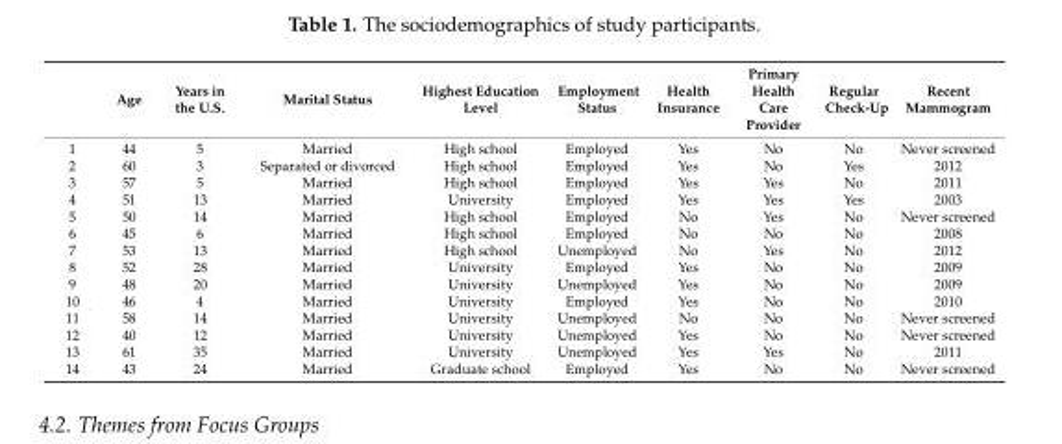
<table><thead><tr><td></td><td>Age</td><td>Years in the U.S.</td><td>Marital Status</td><td>Highest Education Level</td><td>Employment Status</td><td>Health Insurance</td><td>Primary Health Care Provider</td><td>Regular Check-Up</td><td>Recent Mammogram</td></tr></thead><tbody><tr><td>1</td><td>44</td><td>5</td><td>Married</td><td>High school</td><td>Employed</td><td>Yes</td><td>No</td><td>No</td><td>Never screened</td></tr><tr><td>2</td><td>60</td><td>3</td><td>Separated or divorced</td><td>High school</td><td>Employed</td><td>Yes</td><td>No</td><td>Yes</td><td>2012</td></tr><tr><td>3</td><td>57</td><td>5</td><td>Married</td><td>High school</td><td>Employed</td><td>Yes</td><td>Yes</td><td>No</td><td>2011</td></tr><tr><td>4</td><td>51</td><td>13</td><td>Married</td><td>University</td><td>Employed</td><td>Yes</td><td>Yes</td><td>Yes</td><td>2003</td></tr><tr><td>5</td><td>50</td><td>14</td><td>Married</td><td>High school</td><td>Employed</td><td>No</td><td>Yes</td><td>No</td><td>Never screened</td></tr><tr><td>6</td><td>45</td><td>6</td><td>Married</td><td>High school</td><td>Employed</td><td>No</td><td>No</td><td>No</td><td>2008</td></tr><tr><td>7</td><td>53</td><td>13</td><td>Married</td><td>High school</td><td>Unemployed</td><td>No</td><td>Yes</td><td>No</td><td>2012</td></tr><tr><td>8</td><td>52</td><td>28</td><td>Married</td><td>University</td><td>Employed</td><td>Yes</td><td>No</td><td>No</td><td>2009</td></tr><tr><td>9</td><td>48</td><td>20</td><td>Married</td><td>University</td><td>Unemployed</td><td>Yes</td><td>No</td><td>No</td><td>2009</td></tr><tr><td>10</td><td>46</td><td>4</td><td>Married</td><td>University</td><td>Employed</td><td>Yes</td><td>No</td><td>No</td><td>2010</td></tr><tr><td>11</td><td>58</td><td>14</td><td>Married</td><td>University</td><td>Unemployed</td><td>No</td><td>No</td><td>No</td><td>Never screened</td></tr><tr><td>12</td><td>40</td><td>12</td><td>Married</td><td>University</td><td>Unemployed</td><td>Yes</td><td>No</td><td>No</td><td>Never screened</td></tr><tr><td>13</td><td>61</td><td>35</td><td>Married</td><td>University</td><td>Unemployed</td><td>Yes</td><td>Yes</td><td>No</td><td>2011</td></tr><tr><td>14</td><td>43</td><td>24</td><td>Married</td><td>Graduate school</td><td>Employed</td><td>Yes</td><td>No</td><td>No</td><td>Never screened</td></tr></tbody></table>